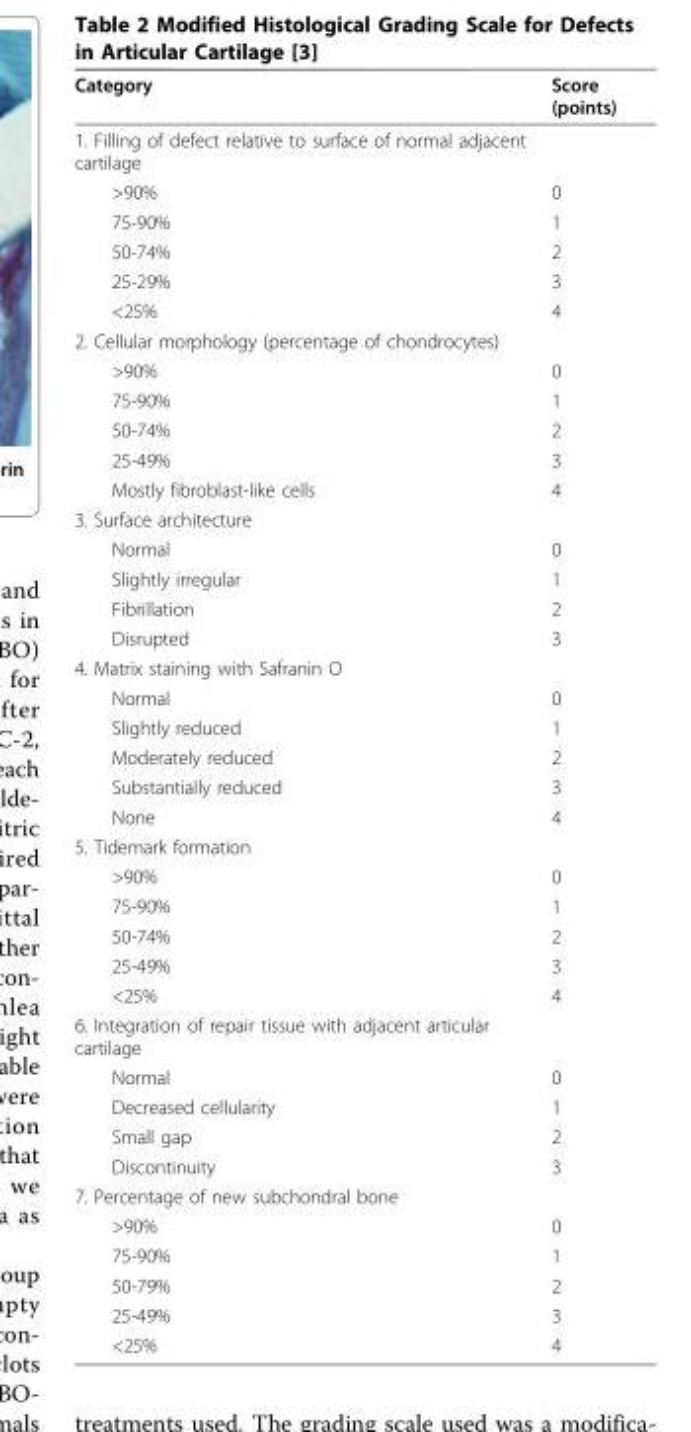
<table><thead><tr><td>Category</td><td>Score (points)</td></tr></thead><tbody><tr><td colspan="2">1. Filling of defect relative to surface of normal adjacent cartilage</td></tr><tr><td>&gt;90%</td><td>0</td></tr><tr><td>75-90%</td><td>1</td></tr><tr><td>50-74%</td><td>2</td></tr><tr><td>25-29%</td><td>3</td></tr><tr><td>&lt;25%</td><td>4</td></tr><tr><td colspan="2">2. Cellular morphology (percentage of chondrocytes)</td></tr><tr><td>&gt;90%</td><td>0</td></tr><tr><td>75-90%</td><td>1</td></tr><tr><td>50-74%</td><td>2</td></tr><tr><td>25-49%</td><td>3</td></tr><tr><td>Mostly fibroblast-like cells</td><td>4</td></tr><tr><td colspan="2">3. Surface architecture</td></tr><tr><td>Normal</td><td>0</td></tr><tr><td>Slightly irregular</td><td>1</td></tr><tr><td>Fibrillation</td><td>2</td></tr><tr><td>Disrupted</td><td>3</td></tr><tr><td colspan="2">4. Matrix staining with Safranin O</td></tr><tr><td>Normal</td><td>0</td></tr><tr><td>Slightly reduced</td><td>1</td></tr><tr><td>Moderately reduced</td><td>2</td></tr><tr><td>Substantially reduced</td><td>3</td></tr><tr><td>None</td><td>4</td></tr><tr><td colspan="2">5. Tidemark formation</td></tr><tr><td>&gt;90%</td><td>0</td></tr><tr><td>75-90%</td><td>1</td></tr><tr><td>50-74%</td><td>2</td></tr><tr><td>25-49%</td><td>3</td></tr><tr><td>&lt;25%</td><td>4</td></tr><tr><td colspan="2">6. Integration of repair tissue with adjacent articular cartilage</td></tr><tr><td>Normal</td><td>0</td></tr><tr><td>Decreased cellularity</td><td>1</td></tr><tr><td>Small gap</td><td>2</td></tr><tr><td>Discontinuity</td><td>3</td></tr><tr><td colspan="2">7. Percentage of new subchondral bone</td></tr><tr><td>&gt;90%</td><td>0</td></tr><tr><td>75-90%</td><td>1</td></tr><tr><td>50-79%</td><td>2</td></tr><tr><td>25-49%</td><td>3</td></tr><tr><td>&lt;25%</td><td>4</td></tr></tbody></table>